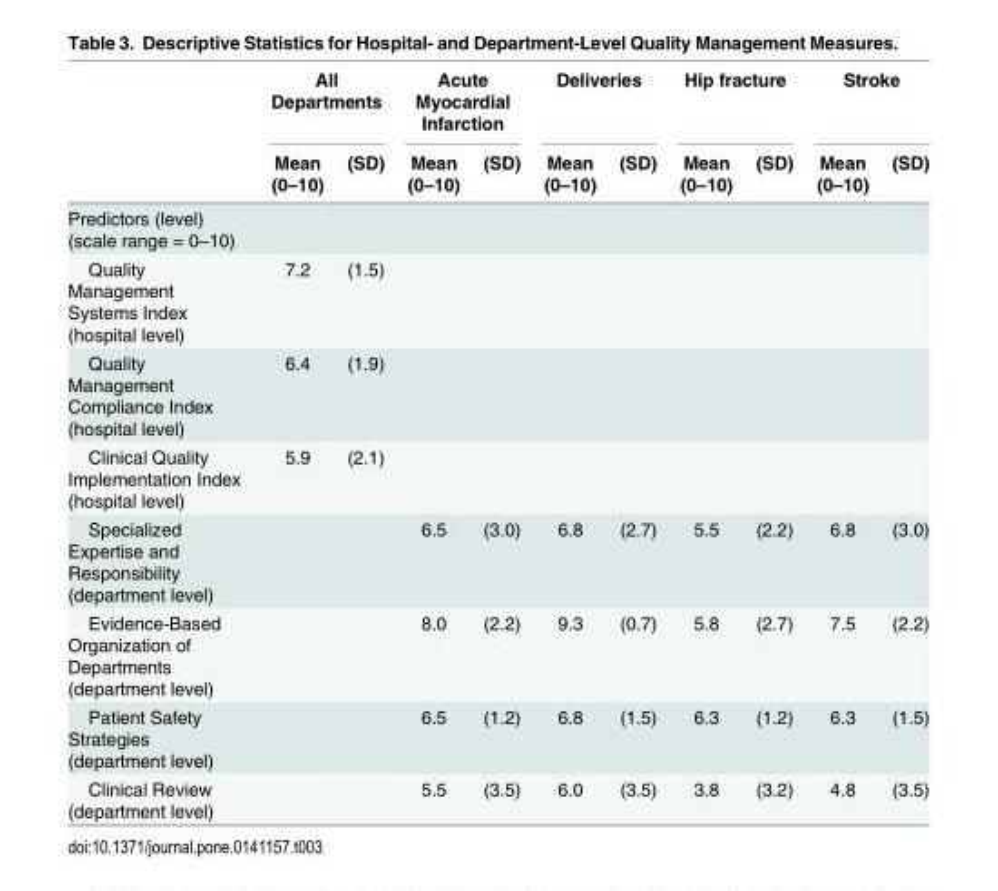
<table><thead><tr><td rowspan="2"></td><td colspan="2">All Departments</td><td colspan="2">Acute Myocardial Infarction</td><td colspan="2">Deliveries</td><td colspan="2">Hip fracture</td><td colspan="2">Stroke</td></tr><tr><td>Mean (0–10)</td><td>(SD)</td><td>Mean (0–10)</td><td>(SD)</td><td>Mean (0–10)</td><td>(SD)</td><td>Mean (0–10)</td><td>(SD)</td><td>Mean (0–10)</td><td>(SD)</td></tr></thead><tbody><tr><td colspan="11">Predictors (level) (scale range = 0–10)</td></tr><tr><td>Quality Management Systems Index (hospital level)</td><td>7.2</td><td>(1.5)</td><td></td><td></td><td></td><td></td><td></td><td></td><td></td><td></td></tr><tr><td>Quality Management Compliance Index (hospital level)</td><td>6.4</td><td>(1.9)</td><td></td><td></td><td></td><td></td><td></td><td></td><td></td><td></td></tr><tr><td>Clinical Quality Implementation Index (hospital level)</td><td>5.9</td><td>(2.1)</td><td></td><td></td><td></td><td></td><td></td><td></td><td></td><td></td></tr><tr><td>Specialized Expertise and Responsibility (department level)</td><td></td><td></td><td>6.5</td><td>(3.0)</td><td>6.8</td><td>(2.7)</td><td>5.5</td><td>(2.2)</td><td>6.8</td><td>(3.0)</td></tr><tr><td>Evidence-Based Organization of Departments (department level)</td><td></td><td></td><td>8.0</td><td>(2.2)</td><td>9.3</td><td>(0.7)</td><td>5.8</td><td>(2.7)</td><td>7.5</td><td>(2.2)</td></tr><tr><td>Patient Safety Strategies (department level)</td><td></td><td></td><td>6.5</td><td>(1.2)</td><td>6.8</td><td>(1.5)</td><td>6.3</td><td>(1.2)</td><td>6.3</td><td>(1.5)</td></tr><tr><td>Clinical Review (department level)</td><td></td><td></td><td>5.5</td><td>(3.5)</td><td>6.0</td><td>(3.5)</td><td>3.8</td><td>(3.2)</td><td>4.8</td><td>(3.5)</td></tr></tbody></table>